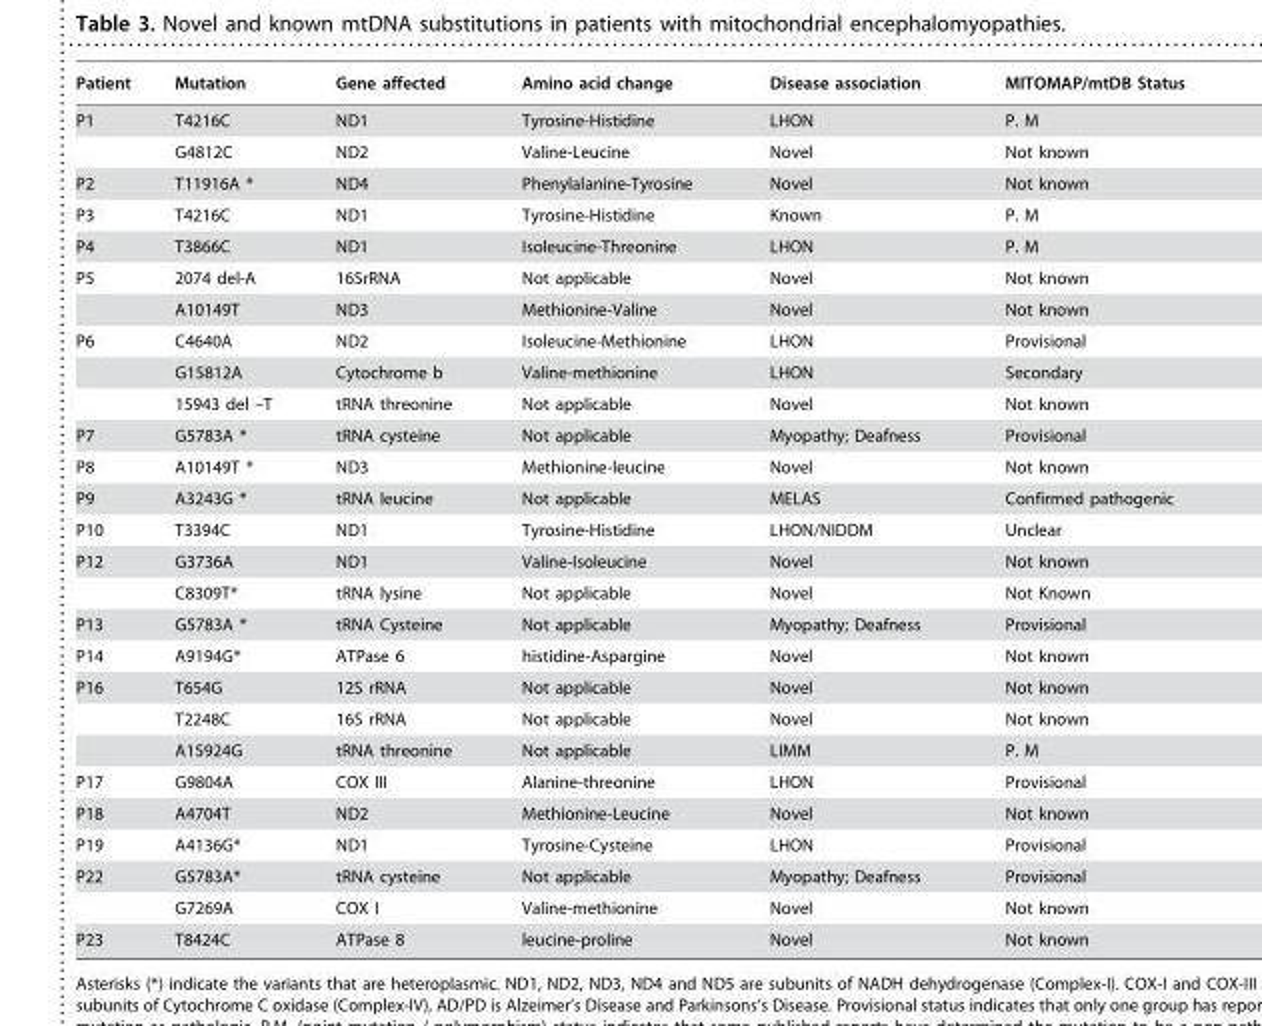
<table><thead><tr><td>Patient</td><td>Mutation</td><td>Gene affected</td><td>Amino acid change</td><td>Disease association</td><td>MITOMAP/mtDB Status</td></tr></thead><tbody><tr><td rowspan="2">P1</td><td>T4216C</td><td>ND1</td><td>Tyrosine-Histidine</td><td>LHON</td><td>P. M</td></tr><tr><td>G4812C</td><td>ND2</td><td>Valine-Leucine</td><td>Novel</td><td>Not known</td></tr><tr><td>P2</td><td>T11916A *</td><td>ND4</td><td>Phenylalanine-Tyrosine</td><td>Novel</td><td>Not known</td></tr><tr><td>P3</td><td>T4216C</td><td>ND1</td><td>Tyrosine-Histidine</td><td>Known</td><td>P. M</td></tr><tr><td>P4</td><td>T3866C</td><td>ND1</td><td>Isoleucine-Threonine</td><td>LHON</td><td>P. M</td></tr><tr><td rowspan="2">P5</td><td>2074 del-A</td><td>16SrRNA</td><td>Not applicable</td><td>Novel</td><td>Not known</td></tr><tr><td>A10149T</td><td>ND3</td><td>Methionine-Valine</td><td>Novel</td><td>Not known</td></tr><tr><td rowspan="3">P6</td><td>C4640A</td><td>ND2</td><td>Isoleucine-Methionine</td><td>LHON</td><td>Provisional</td></tr><tr><td>G15812A</td><td>Cytochrome b</td><td>Valine-methionine</td><td>LHON</td><td>Secondary</td></tr><tr><td>15943 del –T</td><td>tRNA threonine</td><td>Not applicable</td><td>Novel</td><td>Not known</td></tr><tr><td>P7</td><td>G5783A *</td><td>tRNA cysteine</td><td>Not applicable</td><td>Myopathy; Deafness</td><td>Provisional</td></tr><tr><td>P8</td><td>A10149T *</td><td>ND3</td><td>Methionine-leucine</td><td>Novel</td><td>Not known</td></tr><tr><td>P9</td><td>A3243G *</td><td>tRNA leucine</td><td>Not applicable</td><td>MELAS</td><td>Confirmed pathogenic</td></tr><tr><td>P10</td><td>T3394C</td><td>ND1</td><td>Tyrosine-Histidine</td><td>LHON/NIDDM</td><td>Unclear</td></tr><tr><td rowspan="2">P12</td><td>G3736A</td><td>ND1</td><td>Valine-Isoleucine</td><td>Novel</td><td>Not known</td></tr><tr><td>C8309T*</td><td>tRNA lysine</td><td>Not applicable</td><td>Novel</td><td>Not Known</td></tr><tr><td>P13</td><td>G5783A *</td><td>tRNA Cysteine</td><td>Not applicable</td><td>Myopathy; Deafness</td><td>Provisional</td></tr><tr><td>P14</td><td>A9194G*</td><td>ATPase 6</td><td>histidine-Aspargine</td><td>Novel</td><td>Not known</td></tr><tr><td rowspan="3">P16</td><td>T654G</td><td>12S rRNA</td><td>Not applicable</td><td>Novel</td><td>Not known</td></tr><tr><td>T2248C</td><td>16S rRNA</td><td>Not applicable</td><td>Novel</td><td>Not known</td></tr><tr><td>A15924G</td><td>tRNA threonine</td><td>Not applicable</td><td>LIMM</td><td>P. M</td></tr><tr><td>P17</td><td>G9804A</td><td>COX III</td><td>Alanine-threonine</td><td>LHON</td><td>Provisional</td></tr><tr><td>P18</td><td>A4704T</td><td>ND2</td><td>Methionine-Leucine</td><td>Novel</td><td>Not known</td></tr><tr><td>P19</td><td>A4136G*</td><td>ND1</td><td>Tyrosine-Cysteine</td><td>LHON</td><td>Provisional</td></tr><tr><td rowspan="2">P22</td><td>G5783A*</td><td>tRNA cysteine</td><td>Not applicable</td><td>Myopathy; Deafness</td><td>Provisional</td></tr><tr><td>G7269A</td><td>COX I</td><td>Valine-methionine</td><td>Novel</td><td>Not known</td></tr><tr><td>P23</td><td>T8424C</td><td>ATPase 8</td><td>leucine-proline</td><td>Novel</td><td>Not known</td></tr></tbody></table>